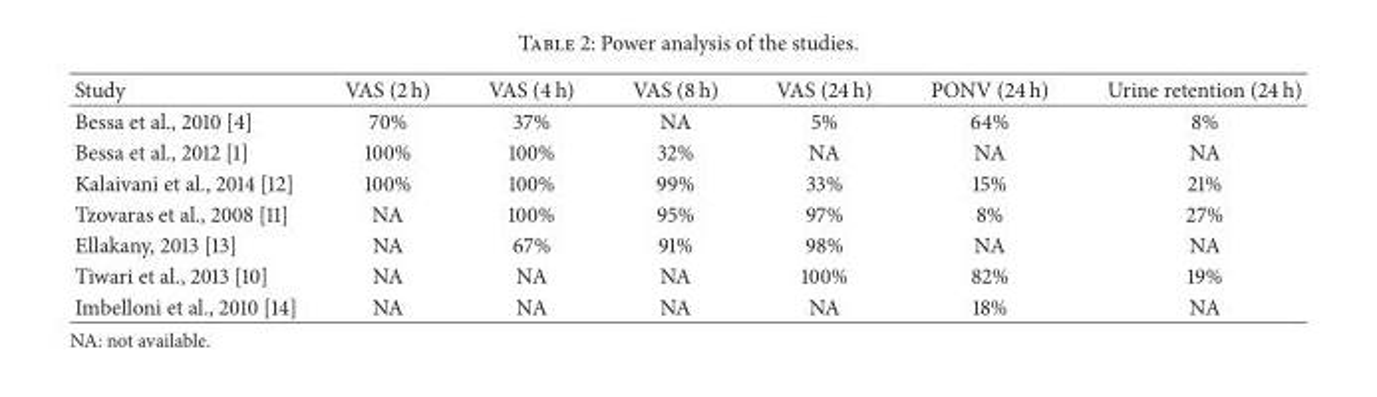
<table><thead><tr><td>Study</td><td>VAS (2 h)</td><td>VAS (4 h)</td><td>VAS (8 h)</td><td>VAS (24 h)</td><td>PONV (24 h)</td><td>Urine retention (24 h)</td></tr></thead><tbody><tr><td>Bessa et al., 2010 [4]</td><td>70%</td><td>37%</td><td>NA</td><td>5%</td><td>64%</td><td>8%</td></tr><tr><td>Bessa et al., 2012 [1]</td><td>100%</td><td>100%</td><td>32%</td><td>NA</td><td>NA</td><td>NA</td></tr><tr><td>Kalaivani et al., 2014 [12]</td><td>100%</td><td>100%</td><td>99%</td><td>33%</td><td>15%</td><td>21%</td></tr><tr><td>Tzovaras et al., 2008 [11]</td><td>NA</td><td>100%</td><td>95%</td><td>97%</td><td>8%</td><td>27%</td></tr><tr><td>Ellakany, 2013 [13]</td><td>NA</td><td>67%</td><td>91%</td><td>98%</td><td>NA</td><td>NA</td></tr><tr><td>Tiwari et al., 2013 [10]</td><td>NA</td><td>NA</td><td>NA</td><td>100%</td><td>82%</td><td>19%</td></tr><tr><td>Imbelloni et al., 2010 [14]</td><td>NA</td><td>NA</td><td>NA</td><td>NA</td><td>18%</td><td>NA</td></tr></tbody></table>